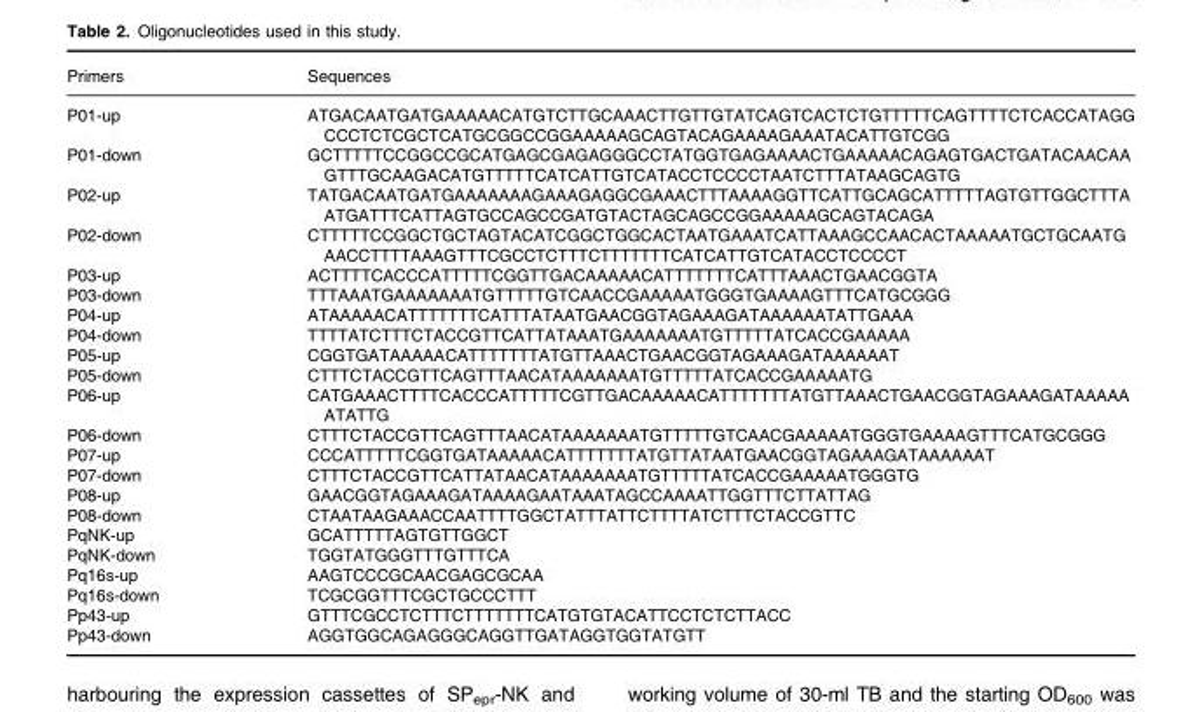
<table><thead><tr><td>Primers</td><td>Sequences</td></tr></thead><tbody><tr><td>P01-up</td><td>ATGACAATGATGAAAAACATGTCTTGCAAACTTGTTGTATCAGTCACTCTGTTTTTCAGTTTTCTCACCATAGG CCCTCTCGCTCATGCGGCCGGAAAAAGCAGTACAGAAAAGAAATACATTGTCGG</td></tr><tr><td>P01-down</td><td>GCTTTTTCCGGCCGCATGAGCGAGAGGGCCTATGGTGAGAAAACTGAAAAACAGAGTGACTGATACAACAA GTTTGCAAGACATGTTTTTCATCATTGTCATACCTCCCCTAATCTTTATAAGCAGTG</td></tr><tr><td>P02-up</td><td>TATGACAATGATGAAAAAAAGAAAGAGGCGAAACTTTAAAAGGTTCATTGCAGCATTTTTAGTGTTGGCTTTA ATGATTTCATTAGTGCCAGCCGATGTACTAGCAGCCGGAAAAAGCAGTACAGA</td></tr><tr><td>P02-down</td><td>CTTTTTCCGGCTGCTAGTACATCGGCTGGCACTAATGAAATCATTAAAGCCAACACTAAAAATGCTGCAATG AACCTTTTAAAGTTTCGCCTCTTTCTTTTTTTCATCATTGTCATACCTCCCCT</td></tr><tr><td>P03-up</td><td>ACTTTTCACCCATTTTTCGGTTGACAAAAACATTTTTTTCATTTAAACTGAACGGTA</td></tr><tr><td>P03-down</td><td>TTTAAATGAAAAAAATGTTTTTGTCAACCGAAAAATGGGTGAAAAGTTTCATGCGGG</td></tr><tr><td>P04-up</td><td>ATAAAAACATTTTTTTCATTTATAATGAACGGTAGAAAGATAAAAAATATTGAAA</td></tr><tr><td>P04-down</td><td>TTTTATCTTTCTACCGTTCATTATAAATGAAAAAAATGTTTTTATCACCGAAAAA</td></tr><tr><td>P05-up</td><td>CGGTGATAAAAACATTTTTTTATGTTAAACTGAACGGTAGAAAGATAAAAAAT</td></tr><tr><td>P05-down</td><td>CTTTCTACCGTTCAGTTTAACATAAAAAAATGTTTTTATCACCGAAAAATG</td></tr><tr><td>P06-up</td><td>CATGAAACTTTTCACCCATTTTTCGTTGACAAAAACATTTTTTTATGTTAAACTGAACGGTAGAAAGATAAAAA ATATTG</td></tr><tr><td>P06-down</td><td>CTTTCTACCGTTCAGTTTAACATAAAAAAATGTTTTTGTCAACGAAAAATGGGTGAAAAGTTTCATGCGGG</td></tr><tr><td>P07-up</td><td>CCCATTTTTCGGTGATAAAAACATTTTTTTATGTTATAATGAACGGTAGAAAGATAAAAAAT</td></tr><tr><td>P07-down</td><td>CTTTCTACCGTTCATTATAACATAAAAAAATGTTTTTATCACCGAAAAATGGGTG</td></tr><tr><td>P08-up</td><td>GAACGGTAGAAAGATAAAAGAATAAATAGCCAAAATTGGTTTCTTATTAG</td></tr><tr><td>P08-down</td><td>CTAATAAGAAACCAATTTTGGCTATTTATTCTTTTATCTTTCTACCGTTC</td></tr><tr><td>PqNK-up</td><td>GCATTTTTAGTGTTGGCT</td></tr><tr><td>PqNK-down</td><td>TGGTATGGGTTTGTTTCA</td></tr><tr><td>Pq16s-up</td><td>AAGTCCCGCAACGAGCGCAA</td></tr><tr><td>Pq16s-down</td><td>TCGCGGTTTCGCTGCCCTTT</td></tr><tr><td>Pp43-up</td><td>GTTTCGCCTCTTTCTTTTTTTCATGTGTACATTCCTCTCTTACC</td></tr><tr><td>Pp43-down</td><td>AGGTGGCAGAGGGCAGGTTGATAGGTGGTATGTT</td></tr></tbody></table>